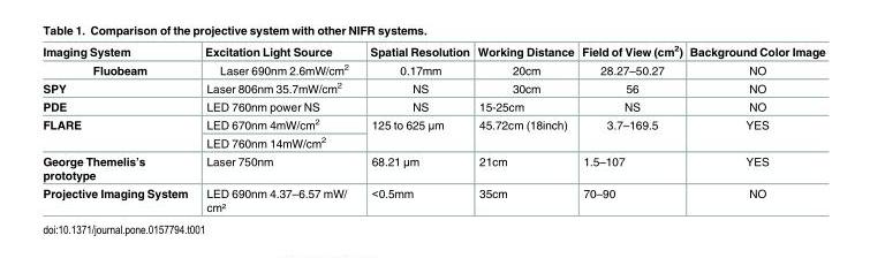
<table><thead><tr><td>Imaging System</td><td>Excitation Light Source</td><td>Spatial Resolution</td><td>Working Distance</td><td>Field of View (cm<sup>2</sup>)</td><td>Background Color Image</td></tr></thead><tbody><tr><td>Fluobeam</td><td>Laser 690nm 2.6mW/cm<sup>2</sup></td><td>0.17mm</td><td>20cm</td><td>28.27–50.27</td><td>NO</td></tr><tr><td>SPY</td><td>Laser 806nm 35.7mW/cm<sup>2</sup></td><td>NS</td><td>30cm</td><td>56</td><td>NO</td></tr><tr><td>PDE</td><td>LED 760nm power NS</td><td>NS</td><td>15-25cm</td><td>NS</td><td>NO</td></tr><tr><td rowspan="2">FLARE</td><td>LED 670nm 4mW/cm<sup>2</sup></td><td rowspan="2">125 to 625 μm</td><td rowspan="2">45.72cm (18inch)</td><td rowspan="2">3.7–169.5</td><td rowspan="2">YES</td></tr><tr><td>LED 760nm 14mW/cm<sup>2</sup></td></tr><tr><td>George Themelis’s prototype</td><td>Laser 750nm</td><td>68.21 μm</td><td>21cm</td><td>1.5–107</td><td>YES</td></tr><tr><td>Projective Imaging System</td><td>LED 690nm 4.37–6.57 mW/ cm²</td><td>&lt;0.5mm</td><td>35cm</td><td>70–90</td><td>NO</td></tr></tbody></table>